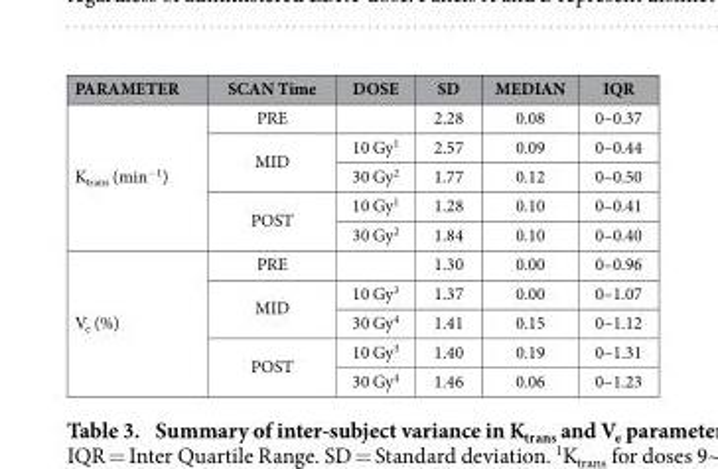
<table><thead><tr><td>PARAMETER</td><td>SCAN Time</td><td>DOSE</td><td>SD</td><td>MEDIAN</td><td>IQR</td></tr></thead><tbody><tr><td rowspan="5">K<sub>trans</sub> (min<sup>−1</sup>)</td><td>PRE</td><td></td><td>2.28</td><td>0.08</td><td>0–0.37</td></tr><tr><td rowspan="2">MID</td><td>10 Gy<sup>1</sup></td><td>2.57</td><td>0.09</td><td>0–0.44</td></tr><tr><td>30 Gy<sup>2</sup></td><td>1.77</td><td>0.12</td><td>0–0.50</td></tr><tr><td rowspan="2">POST</td><td>10 Gy<sup>1</sup></td><td>1.28</td><td>0.10</td><td>0–0.41</td></tr><tr><td>30 Gy<sup>2</sup></td><td>1.84</td><td>0.10</td><td>0–0.40</td></tr><tr><td rowspan="5">V<sub>e</sub> (%)</td><td>PRE</td><td></td><td>1.30</td><td>0.00</td><td>0–0.96</td></tr><tr><td rowspan="2">MID</td><td>10 Gy<sup>3</sup></td><td>1.37</td><td>0.00</td><td>0–1.07</td></tr><tr><td>30 Gy<sup>4</sup></td><td>1.41</td><td>0.15</td><td>0–1.12</td></tr><tr><td rowspan="2">POST</td><td>10 Gy<sup>3</sup></td><td>1.40</td><td>0.19</td><td>0–1.31</td></tr><tr><td>30 Gy<sup>4</sup></td><td>1.46</td><td>0.06</td><td>0–1.23</td></tr></tbody></table>